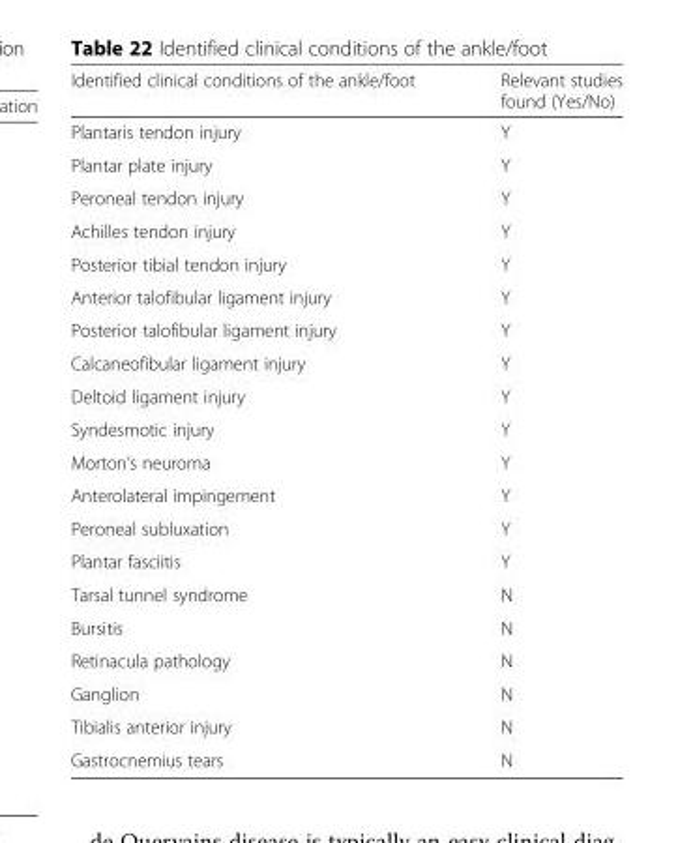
<table><thead><tr><td>Identified clinical conditions of the ankle/foot</td><td>Relevant studies found (Yes/No)</td></tr></thead><tbody><tr><td>Plantaris tendon injury</td><td>Y</td></tr><tr><td>Plantar plate injury</td><td>Y</td></tr><tr><td>Peroneal tendon injury</td><td>Y</td></tr><tr><td>Achilles tendon injury</td><td>Y</td></tr><tr><td>Posterior tibial tendon injury</td><td>Y</td></tr><tr><td>Anterior talofibular ligament injury</td><td>Y</td></tr><tr><td>Posterior talofibular ligament injury</td><td>Y</td></tr><tr><td>Calcaneofibular ligament injury</td><td>Y</td></tr><tr><td>Deltoid ligament injury</td><td>Y</td></tr><tr><td>Syndesmotic injury</td><td>Y</td></tr><tr><td>Morton’s neuroma</td><td>Y</td></tr><tr><td>Anterolateral impingement</td><td>Y</td></tr><tr><td>Peroneal subluxation</td><td>Y</td></tr><tr><td>Plantar fasciitis</td><td>Y</td></tr><tr><td>Tarsal tunnel syndrome</td><td>N</td></tr><tr><td>Bursitis</td><td>N</td></tr><tr><td>Retinacula pathology</td><td>N</td></tr><tr><td>Ganglion</td><td>N</td></tr><tr><td>Tibialis anterior injury</td><td>N</td></tr><tr><td>Gastrocnemius tears</td><td>N</td></tr></tbody></table>